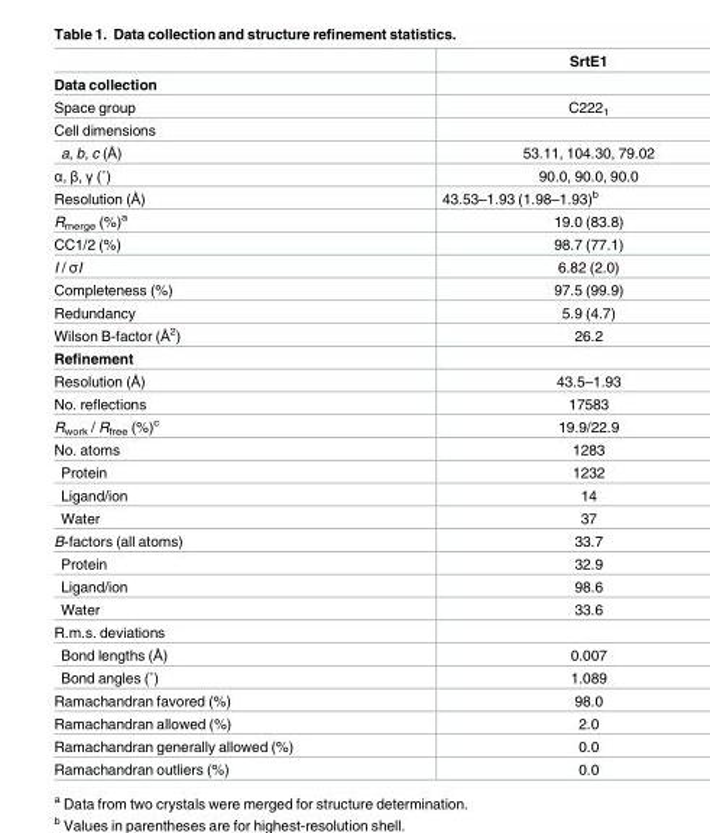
<table><thead><tr><td></td><td>SrtE1</td></tr></thead><tbody><tr><td colspan="2">Data collection</td></tr><tr><td>Space group</td><td>C222<sub>1</sub></td></tr><tr><td colspan="2">Cell dimensions</td></tr><tr><td>a, b, c (Å)</td><td>53.11, 104.30, 79.02</td></tr><tr><td>α, β, γ (˚)</td><td>90.0, 90.0, 90.0</td></tr><tr><td>Resolution (Å)</td><td>43.53–1.93 (1.98–1.93)<sup>b</sup></td></tr><tr><td>R<sub>merge</sub> (%)<sup>a</sup></td><td>19.0 (83.8)</td></tr><tr><td>CC1/2 (%)</td><td>98.7 (77.1)</td></tr><tr><td>I / σI</td><td>6.82 (2.0)</td></tr><tr><td>Completeness (%)</td><td>97.5 (99.9)</td></tr><tr><td>Redundancy</td><td>5.9 (4.7)</td></tr><tr><td>Wilson B-factor (Å<sup>2</sup>)</td><td>26.2</td></tr><tr><td colspan="2">Refinement</td></tr><tr><td>Resolution (Å)</td><td>43.5–1.93</td></tr><tr><td>No. reflections</td><td>17583</td></tr><tr><td>R<sub>work</sub> / R<sub>free</sub> (%)<sup>c</sup></td><td>19.9/22.9</td></tr><tr><td>No. atoms</td><td>1283</td></tr><tr><td>Protein</td><td>1232</td></tr><tr><td>Ligand/ion</td><td>14</td></tr><tr><td>Water</td><td>37</td></tr><tr><td>B-factors (all atoms)</td><td>33.7</td></tr><tr><td>Protein</td><td>32.9</td></tr><tr><td>Ligand/ion</td><td>98.6</td></tr><tr><td>Water</td><td>33.6</td></tr><tr><td colspan="2">R.m.s. deviations</td></tr><tr><td>Bond lengths (Å)</td><td>0.007</td></tr><tr><td>Bond angles (˚)</td><td>1.089</td></tr><tr><td>Ramachandran favored (%)</td><td>98.0</td></tr><tr><td>Ramachandran allowed (%)</td><td>2.0</td></tr><tr><td>Ramachandran generally allowed (%)</td><td>0.0</td></tr><tr><td>Ramachandran outliers (%)</td><td>0.0</td></tr></tbody></table>